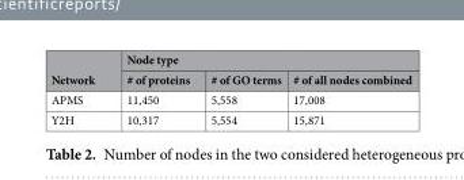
<table><thead><tr><td rowspan="2">Network</td><td colspan="3">Node type</td></tr><tr><td># of proteins</td><td># of GO terms</td><td># of all nodes combined</td></tr></thead><tbody><tr><td>APMS</td><td>11,450</td><td>5,558</td><td>17,008</td></tr><tr><td>Y2H</td><td>10,317</td><td>5,554</td><td>15,871</td></tr></tbody></table>